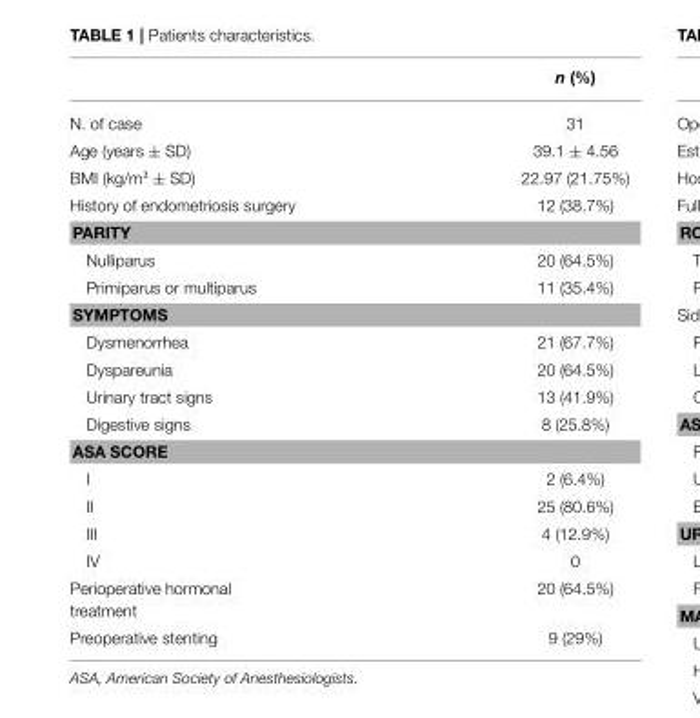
<table><thead><tr><td></td><td>n (%)</td></tr></thead><tbody><tr><td>N. of case</td><td>31</td></tr><tr><td>Age (years ± SD)</td><td>39.1 ± 4.56</td></tr><tr><td>BMI (kg/m² ± SD)</td><td>22.97 (21.75%)</td></tr><tr><td>History of endometriosis surgery</td><td>12 (38.7%)</td></tr><tr><td colspan="2">PARITY</td></tr><tr><td>Nulliparus</td><td>20 (64.5%)</td></tr><tr><td>Primiparus or multiparus</td><td>11 (35.4%)</td></tr><tr><td colspan="2">SYMPTOMS</td></tr><tr><td>Dysmenorrhea</td><td>21 (67.7%)</td></tr><tr><td>Dyspareunia</td><td>20 (64.5%)</td></tr><tr><td>Urinary tract signs</td><td>13 (41.9%)</td></tr><tr><td>Digestive signs</td><td>8 (25.8%)</td></tr><tr><td colspan="2">ASA SCORE</td></tr><tr><td>I</td><td>2 (6.4%)</td></tr><tr><td>II</td><td>25 (80.6%)</td></tr><tr><td>III</td><td>4 (12.9%)</td></tr><tr><td>IV</td><td>0</td></tr><tr><td>Perioperative hormonal treatment</td><td>20 (64.5%)</td></tr><tr><td>Preoperative stenting</td><td>9 (29%)</td></tr></tbody></table>